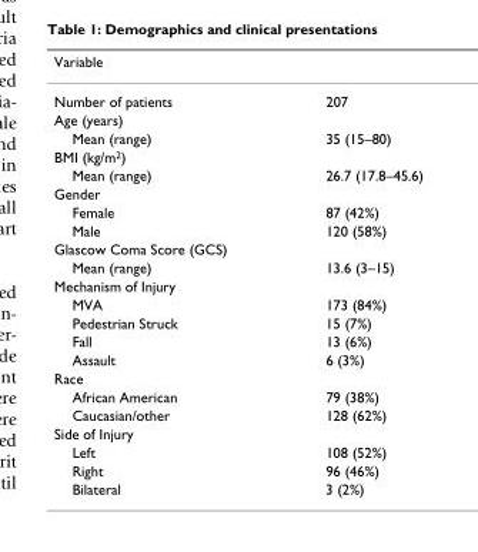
<table><thead><tr><td>Variable</td><td></td></tr></thead><tbody><tr><td>Number of patients</td><td>207</td></tr><tr><td colspan="2">Age (years)</td></tr><tr><td>Mean (range)</td><td>35 (15–80)</td></tr><tr><td colspan="2">BMI (kg/m<sup>2</sup>)</td></tr><tr><td>Mean (range)</td><td>26.7 (17.8–45.6)</td></tr><tr><td colspan="2">Gender</td></tr><tr><td>Female</td><td>87 (42%)</td></tr><tr><td>Male</td><td>120 (58%)</td></tr><tr><td colspan="2">Glascow Coma Score (GCS)</td></tr><tr><td>Mean (range)</td><td>13.6 (3–15)</td></tr><tr><td colspan="2">Mechanism of Injury</td></tr><tr><td>MVA</td><td>173 (84%)</td></tr><tr><td>Pedestrian Struck</td><td>15 (7%)</td></tr><tr><td>Fall</td><td>13 (6%)</td></tr><tr><td>Assault</td><td>6 (3%)</td></tr><tr><td colspan="2">Race</td></tr><tr><td>African American</td><td>79 (38%)</td></tr><tr><td>Caucasian/other</td><td>128 (62%)</td></tr><tr><td colspan="2">Side of Injury</td></tr><tr><td>Left</td><td>108 (52%)</td></tr><tr><td>Right</td><td>96 (46%)</td></tr><tr><td>Bilateral</td><td>3 (2%)</td></tr></tbody></table>